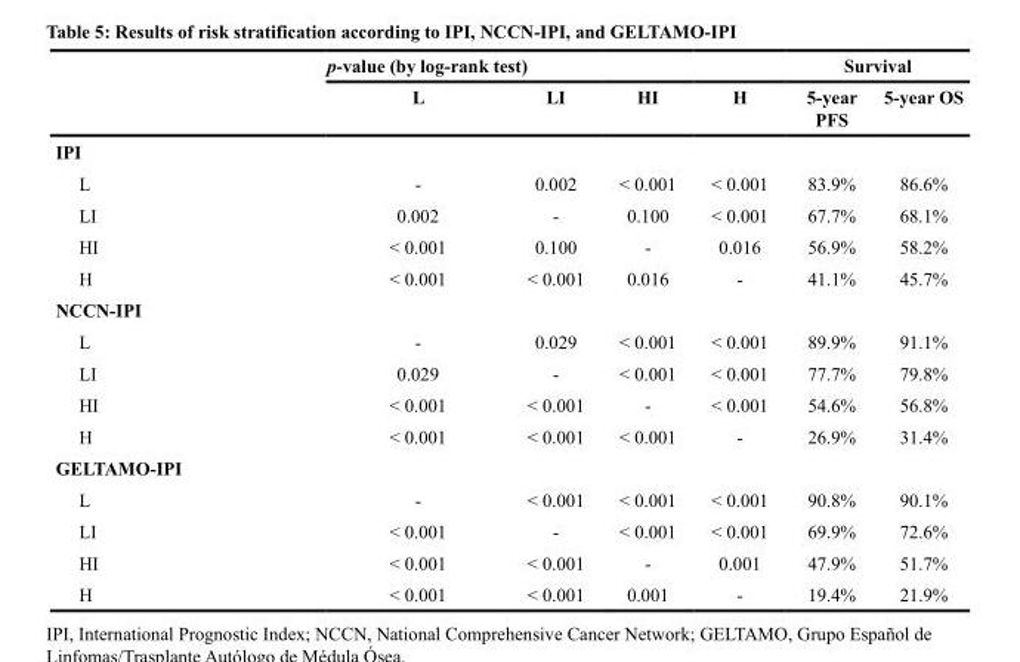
<table><thead><tr><td colspan="5">p-value (by log-rank test)</td><td colspan="2">Survival</td></tr><tr><td></td><td>L</td><td>LI</td><td>HI</td><td>H</td><td>5-year PFS</td><td>5-year OS</td></tr></thead><tbody><tr><td colspan="7">IPI</td></tr><tr><td>L</td><td>-</td><td>0.002</td><td>&lt; 0.001</td><td>&lt; 0.001</td><td>83.9%</td><td>86.6%</td></tr><tr><td>LI</td><td>0.002</td><td>-</td><td>0.100</td><td>&lt; 0.001</td><td>67.7%</td><td>68.1%</td></tr><tr><td>HI</td><td>&lt; 0.001</td><td>0.100</td><td>-</td><td>0.016</td><td>56.9%</td><td>58.2%</td></tr><tr><td>H</td><td>&lt; 0.001</td><td>&lt; 0.001</td><td>0.016</td><td>-</td><td>41.1%</td><td>45.7%</td></tr><tr><td colspan="7">NCCN-IPI</td></tr><tr><td>L</td><td>-</td><td>0.029</td><td>&lt; 0.001</td><td>&lt; 0.001</td><td>89.9%</td><td>91.1%</td></tr><tr><td>LI</td><td>0.029</td><td>-</td><td>&lt; 0.001</td><td>&lt; 0.001</td><td>77.7%</td><td>79.8%</td></tr><tr><td>HI</td><td>&lt; 0.001</td><td>&lt; 0.001</td><td>-</td><td>&lt; 0.001</td><td>54.6%</td><td>56.8%</td></tr><tr><td>H</td><td>&lt; 0.001</td><td>&lt; 0.001</td><td>&lt; 0.001</td><td>-</td><td>26.9%</td><td>31.4%</td></tr><tr><td colspan="7">GELTAMO-IPI</td></tr><tr><td>L</td><td>-</td><td>&lt; 0.001</td><td>&lt; 0.001</td><td>&lt; 0.001</td><td>90.8%</td><td>90.1%</td></tr><tr><td>LI</td><td>&lt; 0.001</td><td>-</td><td>&lt; 0.001</td><td>&lt; 0.001</td><td>69.9%</td><td>72.6%</td></tr><tr><td>HI</td><td>&lt; 0.001</td><td>&lt; 0.001</td><td>-</td><td>0.001</td><td>47.9%</td><td>51.7%</td></tr><tr><td>H</td><td>&lt; 0.001</td><td>&lt; 0.001</td><td>0.001</td><td>-</td><td>19.4%</td><td>21.9%</td></tr></tbody></table>